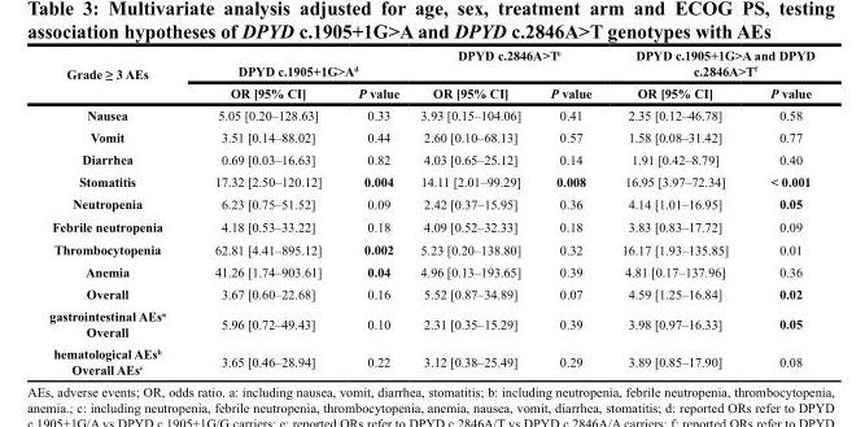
<table><thead><tr><td rowspan="2">Grade ≥ 3 AEs</td><td colspan="2">DPYD c.1905+1G&gt;A<sup>d</sup></td><td colspan="2">DPYD c.2846A&gt;T<sup>e</sup></td><td colspan="2">DPYD c.1905+1G&gt;A and DPYD c.2846A&gt;T<sup>f</sup></td></tr><tr><td>OR [95% CI]</td><td>P value</td><td>OR [95% CI]</td><td>P value</td><td>OR [95% CI]</td><td>P value</td></tr></thead><tbody><tr><td>Nausea</td><td>5.05 [0.20–128.63]</td><td>0.33</td><td>3.93 [0.15–104.06]</td><td>0.41</td><td>2.35 [0.12–46.78]</td><td>0.58</td></tr><tr><td>Vomit</td><td>3.51 [0.14–88.02]</td><td>0.44</td><td>2.60 [0.10–68.13]</td><td>0.57</td><td>1.58 [0.08–31.42]</td><td>0.77</td></tr><tr><td>Diarrhea</td><td>0.69 [0.03–16.63]</td><td>0.82</td><td>4.03 [0.65–25.12]</td><td>0.14</td><td>1.91 [0.42–8.79]</td><td>0.40</td></tr><tr><td>Stomatitis</td><td>17.32 [2.50–120.12]</td><td>0.004</td><td>14.11 [2.01–99.29]</td><td>0.008</td><td>16.95 [3.97–72.34]</td><td>&lt; 0.001</td></tr><tr><td>Neutropenia</td><td>6.23 [0.75–51.52]</td><td>0.09</td><td>2.42 [0.37–15.95]</td><td>0.36</td><td>4.14 [1.01–16.95]</td><td>0.05</td></tr><tr><td>Febrile neutropenia</td><td>4.18 [0.53–33.22]</td><td>0.18</td><td>4.09 [0.52–32.33]</td><td>0.18</td><td>3.83 [0.83–17.72]</td><td>0.09</td></tr><tr><td>Thrombocytopenia</td><td>62.81 [4.41–895.12]</td><td>0.002</td><td>5.23 [0.20–138.80]</td><td>0.32</td><td>16.17 [1.93–135.85]</td><td>0.01</td></tr><tr><td>Anemia</td><td>41.26 [1.74–903.61]</td><td>0.04</td><td>4.96 [0.13–193.65]</td><td>0.39</td><td>4.81 [0.17–137.96]</td><td>0.36</td></tr><tr><td>Overall</td><td>3.67 [0.60–22.68]</td><td>0.16</td><td>5.52 [0.87–34.89]</td><td>0.07</td><td>4.59 [1.25–16.84]</td><td>0.02</td></tr><tr><td>gastrointestinal AEs<sup>a</sup> Overall</td><td>5.96 [0.72–49.43]</td><td>0.10</td><td>2.31 [0.35–15.29]</td><td>0.39</td><td>3.98 [0.97–16.33]</td><td>0.05</td></tr><tr><td>hematological AEs<sup>b</sup> Overall AEs<sup>c</sup></td><td>3.65 [0.46–28.94]</td><td>0.22</td><td>3.12 [0.38–25.49]</td><td>0.29</td><td>3.89 [0.85–17.90]</td><td>0.08</td></tr></tbody></table>